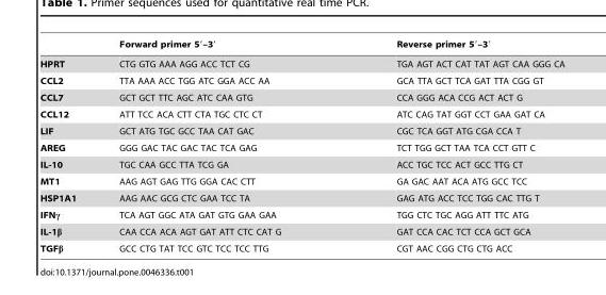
<table><thead><tr><td></td><td>Forward primer 5′–3′</td><td>Reverse primer 5′–3′</td></tr></thead><tbody><tr><td>HPRT</td><td>CTG GTG AAA AGG ACC TCT CG</td><td>TGA AGT ACT CAT TAT AGT CAA GGG CA</td></tr><tr><td>CCL2</td><td>TTA AAA ACC TGG ATC GGA ACC AA</td><td>GCA TTA GCT TCA GAT TTA CGG GT</td></tr><tr><td>CCL7</td><td>GCT GCT TTC AGC ATC CAA GTG</td><td>CCA GGG ACA CCG ACT ACT G</td></tr><tr><td>CCL12</td><td>ATT TCC ACA CTT CTA TGC CTC CT</td><td>ATC CAG TAT GGT CCT GAA GAT CA</td></tr><tr><td>LIF</td><td>GCT ATG TGC GCC TAA CAT GAC</td><td>CGC TCA GGT ATG CGA CCA T</td></tr><tr><td>AREG</td><td>GGG GAC TAC GAC TAC TCA GAG</td><td>TCT TGG GCT TAA TCA CCT GTT C</td></tr><tr><td>IL-10</td><td>TGC CAA GCC TTA TCG GA</td><td>ACC TGC TCC ACT GCC TTG CT</td></tr><tr><td>MT1</td><td>AAG AGT GAG TTG GGA CAC CTT</td><td>GA GAC AAT ACA ATG GCC TCC</td></tr><tr><td>HSP1A1</td><td>AAG AAC GCG CTC GAA TCC TA</td><td>GAG ATG ACC TCC TGG CAC TTG T</td></tr><tr><td>IFNγ</td><td>TCA AGT GGC ATA GAT GTG GAA GAA</td><td>TGG CTC TGC AGG ATT TTC ATG</td></tr><tr><td>IL-1β</td><td>CAA CCA ACA AGT GAT ATT CTC CAT G</td><td>GAT CCA CAC TCT CCA GCT GCA</td></tr><tr><td>TGFβ</td><td>GCC CTG TAT TCC GTC TCC TCC TTG</td><td>CGT AAC CGG CTG CTG ACC</td></tr></tbody></table>